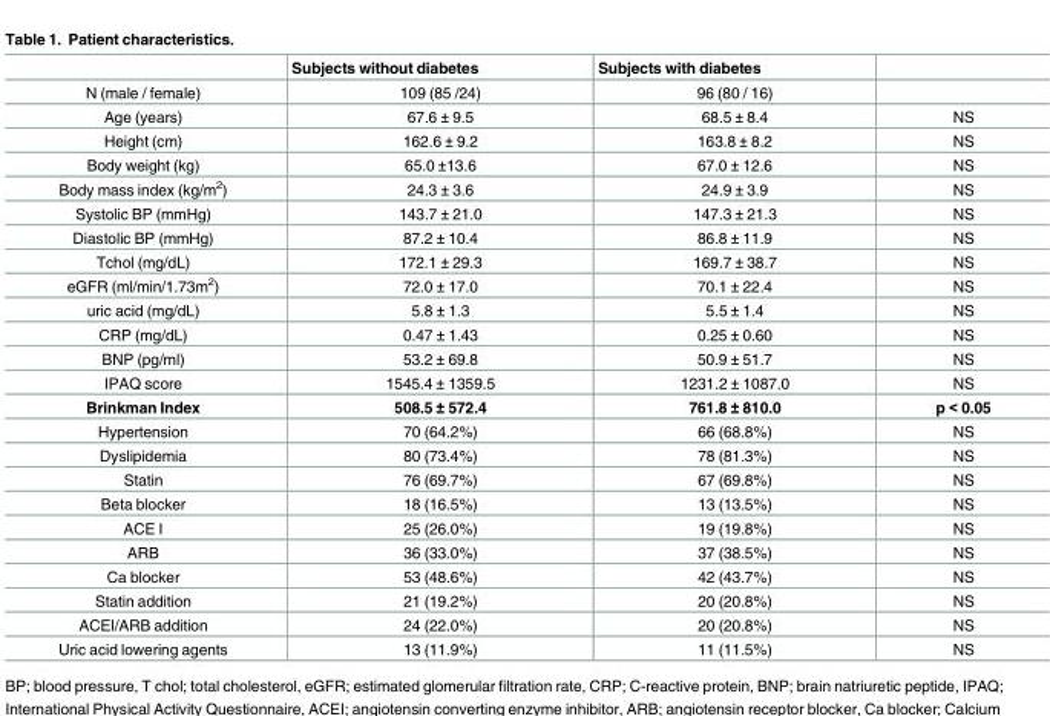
<table><thead><tr><td></td><td>Subjects without diabetes</td><td>Subjects with diabetes</td><td></td></tr></thead><tbody><tr><td>N (male / female)</td><td>109 (85 /24)</td><td>96 (80 / 16)</td><td></td></tr><tr><td>Age (years)</td><td>67.6 ± 9.5</td><td>68.5 ± 8.4</td><td>NS</td></tr><tr><td>Height (cm)</td><td>162.6 ± 9.2</td><td>163.8 ± 8.2</td><td>NS</td></tr><tr><td>Body weight (kg)</td><td>65.0 ±13.6</td><td>67.0 ± 12.6</td><td>NS</td></tr><tr><td>Body mass index (kg/m<sup>2</sup>)</td><td>24.3 ± 3.6</td><td>24.9 ± 3.9</td><td>NS</td></tr><tr><td>Systolic BP (mmHg)</td><td>143.7 ± 21.0</td><td>147.3 ± 21.3</td><td>NS</td></tr><tr><td>Diastolic BP (mmHg)</td><td>87.2 ± 10.4</td><td>86.8 ± 11.9</td><td>NS</td></tr><tr><td>Tchol (mg/dL)</td><td>172.1 ± 29.3</td><td>169.7 ± 38.7</td><td>NS</td></tr><tr><td>eGFR (ml/min/1.73m<sup>2</sup>)</td><td>72.0 ± 17.0</td><td>70.1 ± 22.4</td><td>NS</td></tr><tr><td>uric acid (mg/dL)</td><td>5.8 ± 1.3</td><td>5.5 ± 1.4</td><td>NS</td></tr><tr><td>CRP (mg/dL)</td><td>0.47 ± 1.43</td><td>0.25 ± 0.60</td><td>NS</td></tr><tr><td>BNP (pg/ml)</td><td>53.2 ± 69.8</td><td>50.9 ± 51.7</td><td>NS</td></tr><tr><td>IPAQ score</td><td>1545.4 ± 1359.5</td><td>1231.2 ± 1087.0</td><td>NS</td></tr><tr><td>Brinkman Index</td><td>508.5 ± 572.4</td><td>761.8 ± 810.0</td><td>p &lt; 0.05</td></tr><tr><td>Hypertension</td><td>70 (64.2%)</td><td>66 (68.8%)</td><td>NS</td></tr><tr><td>Dyslipidemia</td><td>80 (73.4%)</td><td>78 (81.3%)</td><td>NS</td></tr><tr><td>Statin</td><td>76 (69.7%)</td><td>67 (69.8%)</td><td>NS</td></tr><tr><td>Beta blocker</td><td>18 (16.5%)</td><td>13 (13.5%)</td><td>NS</td></tr><tr><td>ACE I</td><td>25 (26.0%)</td><td>19 (19.8%)</td><td>NS</td></tr><tr><td>ARB</td><td>36 (33.0%)</td><td>37 (38.5%)</td><td>NS</td></tr><tr><td>Ca blocker</td><td>53 (48.6%)</td><td>42 (43.7%)</td><td>NS</td></tr><tr><td>Statin addition</td><td>21 (19.2%)</td><td>20 (20.8%)</td><td>NS</td></tr><tr><td>ACEI/ARB addition</td><td>24 (22.0%)</td><td>20 (20.8%)</td><td>NS</td></tr><tr><td>Uric acid lowering agents</td><td>13 (11.9%)</td><td>11 (11.5%)</td><td>NS</td></tr></tbody></table>